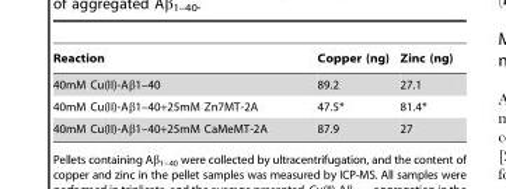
<table><thead><tr><td>Reaction</td><td>Copper (ng)</td><td>Zinc (ng)</td></tr></thead><tbody><tr><td>40mM Cu(II)-Aβ1–40</td><td>89.2</td><td>27.1</td></tr><tr><td>40mM Cu(II)-Aβ1–40+25mM Zn7MT-2A</td><td>47.5*</td><td>81.4*</td></tr><tr><td>40mM Cu(II)-Aβ1–40+25mM CaMeMT-2A</td><td>87.9</td><td>27</td></tr></tbody></table>